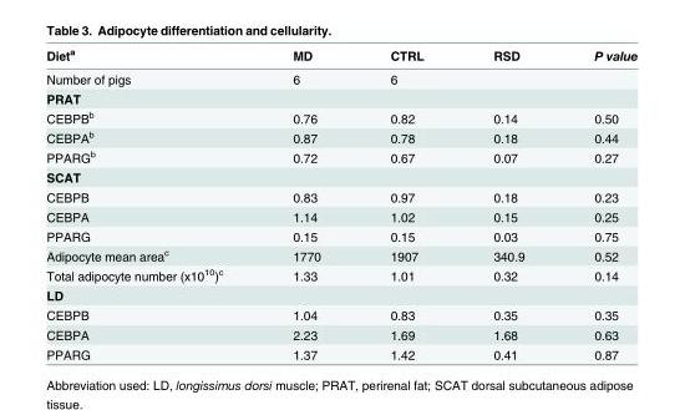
<table><thead><tr><td>Diet<sup>a</sup></td><td>MD</td><td>CTRL</td><td>RSD</td><td>P value</td></tr></thead><tbody><tr><td>Number of pigs</td><td>6</td><td>6</td><td></td><td></td></tr><tr><td colspan="5">PRAT</td></tr><tr><td>CEBPB<sup>b</sup></td><td>0.76</td><td>0.82</td><td>0.14</td><td>0.50</td></tr><tr><td>CEBPA<sup>b</sup></td><td>0.87</td><td>0.78</td><td>0.18</td><td>0.44</td></tr><tr><td>PPARG<sup>b</sup></td><td>0.72</td><td>0.67</td><td>0.07</td><td>0.27</td></tr><tr><td colspan="5">SCAT</td></tr><tr><td>CEBPB</td><td>0.83</td><td>0.97</td><td>0.18</td><td>0.23</td></tr><tr><td>CEBPA</td><td>1.14</td><td>1.02</td><td>0.15</td><td>0.25</td></tr><tr><td>PPARG</td><td>0.15</td><td>0.15</td><td>0.03</td><td>0.75</td></tr><tr><td>Adipocyte mean area<sup>c</sup></td><td>1770</td><td>1907</td><td>340.9</td><td>0.52</td></tr><tr><td>Total adipocyte number (x10<sup>10</sup>)<sup>c</sup></td><td>1.33</td><td>1.01</td><td>0.32</td><td>0.14</td></tr><tr><td colspan="5">LD</td></tr><tr><td>CEBPB</td><td>1.04</td><td>0.83</td><td>0.35</td><td>0.35</td></tr><tr><td>CEBPA</td><td>2.23</td><td>1.69</td><td>1.68</td><td>0.63</td></tr><tr><td>PPARG</td><td>1.37</td><td>1.42</td><td>0.41</td><td>0.87</td></tr></tbody></table>